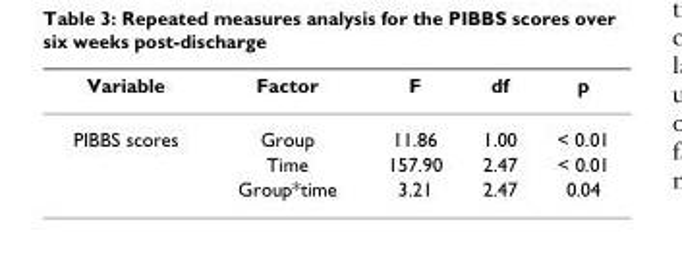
<table><thead><tr><td>Variable</td><td>Factor</td><td>F</td><td>df</td><td>p</td></tr></thead><tbody><tr><td rowspan="3">PIBBS scores</td><td>Group</td><td>11.86</td><td>1.00</td><td>&lt; 0.01</td></tr><tr><td>Time</td><td>157.90</td><td>2.47</td><td>&lt; 0.01</td></tr><tr><td>Group*time</td><td>3.21</td><td>2.47</td><td>0.04</td></tr></tbody></table>